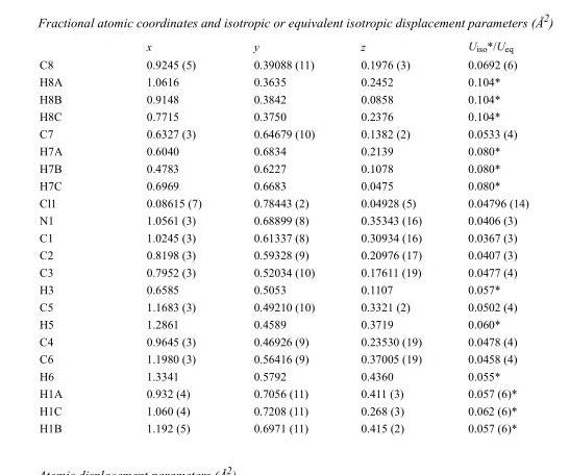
<table><thead><tr><td></td><td>x</td><td>y</td><td>z</td><td>U<sub>iso</sub>*/U<sub>eq</sub></td></tr></thead><tbody><tr><td>C8</td><td>0.9245 (5)</td><td>0.39088 (11)</td><td>0.1976 (3)</td><td>0.0692 (6)</td></tr><tr><td>H8A</td><td>1.0616</td><td>0.3635</td><td>0.2452</td><td>0.104*</td></tr><tr><td>H8B</td><td>0.9148</td><td>0.3842</td><td>0.0858</td><td>0.104*</td></tr><tr><td>H8C</td><td>0.7715</td><td>0.3750</td><td>0.2376</td><td>0.104*</td></tr><tr><td>C7</td><td>0.6327 (3)</td><td>0.64679 (10)</td><td>0.1382 (2)</td><td>0.0533 (4)</td></tr><tr><td>H7A</td><td>0.6040</td><td>0.6834</td><td>0.2139</td><td>0.080*</td></tr><tr><td>H7B</td><td>0.4783</td><td>0.6227</td><td>0.1078</td><td>0.080*</td></tr><tr><td>H7C</td><td>0.6969</td><td>0.6683</td><td>0.0475</td><td>0.080*</td></tr><tr><td>Cl1</td><td>0.08615 (7)</td><td>0.78443 (2)</td><td>0.04928 (5)</td><td>0.04796 (14)</td></tr><tr><td>N1</td><td>1.0561 (3)</td><td>0.68899 (8)</td><td>0.35343 (16)</td><td>0.0406 (3)</td></tr><tr><td>C1</td><td>1.0245 (3)</td><td>0.61337 (8)</td><td>0.30934 (16)</td><td>0.0367 (3)</td></tr><tr><td>C2</td><td>0.8198 (3)</td><td>0.59328 (9)</td><td>0.20976 (17)</td><td>0.0407 (3)</td></tr><tr><td>C3</td><td>0.7952 (3)</td><td>0.52034 (10)</td><td>0.17611 (19)</td><td>0.0477 (4)</td></tr><tr><td>H3</td><td>0.6585</td><td>0.5053</td><td>0.1107</td><td>0.057*</td></tr><tr><td>C5</td><td>1.1683 (3)</td><td>0.49210 (10)</td><td>0.3321 (2)</td><td>0.0502 (4)</td></tr><tr><td>H5</td><td>1.2861</td><td>0.4589</td><td>0.3719</td><td>0.060*</td></tr><tr><td>C4</td><td>0.9645 (3)</td><td>0.46926 (9)</td><td>0.23530 (19)</td><td>0.0478 (4)</td></tr><tr><td>C6</td><td>1.1980 (3)</td><td>0.56416 (9)</td><td>0.37005 (19)</td><td>0.0458 (4)</td></tr><tr><td>H6</td><td>1.3341</td><td>0.5792</td><td>0.4360</td><td>0.055*</td></tr><tr><td>H1A</td><td>0.932 (4)</td><td>0.7056 (11)</td><td>0.411 (3)</td><td>0.057 (6)*</td></tr><tr><td>H1C</td><td>1.060 (4)</td><td>0.7208 (11)</td><td>0.268 (3)</td><td>0.062 (6)*</td></tr><tr><td>H1B</td><td>1.192 (5)</td><td>0.6971 (11)</td><td>0.415 (2)</td><td>0.057 (6)*</td></tr></tbody></table>